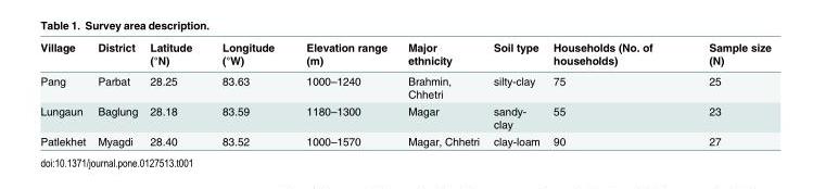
<table><thead><tr><td>Village</td><td>District</td><td>Latitude (°N)</td><td>Longitude (°W)</td><td>Elevation range (m)</td><td>Major ethnicity</td><td>Soil type</td><td>Households (No. of households)</td><td>Sample size (N)</td></tr></thead><tbody><tr><td>Pang</td><td>Parbat</td><td>28.25</td><td>83.63</td><td>1000–1240</td><td>Brahmin, Chhetri</td><td>silty-clay</td><td>75</td><td>25</td></tr><tr><td>Lungaun</td><td>Baglung</td><td>28.18</td><td>83.59</td><td>1180–1300</td><td>Magar</td><td>sandy- clay</td><td>55</td><td>23</td></tr><tr><td>Patlekhet</td><td>Myagdi</td><td>28.40</td><td>83.52</td><td>1000–1570</td><td>Magar, Chhetri</td><td>clay-loam</td><td>90</td><td>27</td></tr></tbody></table>